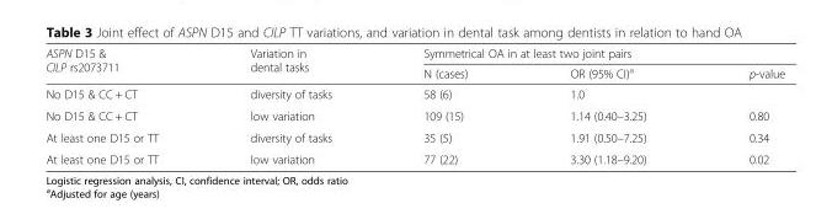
<table><thead><tr><td rowspan="2">ASPN D15 &amp; CILP rs2073711</td><td rowspan="2">Variation in dental tasks</td><td colspan="3">Symmetrical OA in at least two joint pairs</td></tr><tr><td>N (cases)</td><td>OR (95% CI)<sup>a</sup></td><td>p-value</td></tr></thead><tbody><tr><td>No D15 &amp; CC + CT</td><td>diversity of tasks</td><td>58 (6)</td><td>1.0</td><td></td></tr><tr><td>No D15 &amp; CC + CT</td><td>low variation</td><td>109 (15)</td><td>1.14 (0.40–3.25)</td><td>0.80</td></tr><tr><td>At least one D15 or TT</td><td>diversity of tasks</td><td>35 (5)</td><td>1.91 (0.50–7.25)</td><td>0.34</td></tr><tr><td>At least one D15 or TT</td><td>low variation</td><td>77 (22)</td><td>3.30 (1.18–9.20)</td><td>0.02</td></tr></tbody></table>